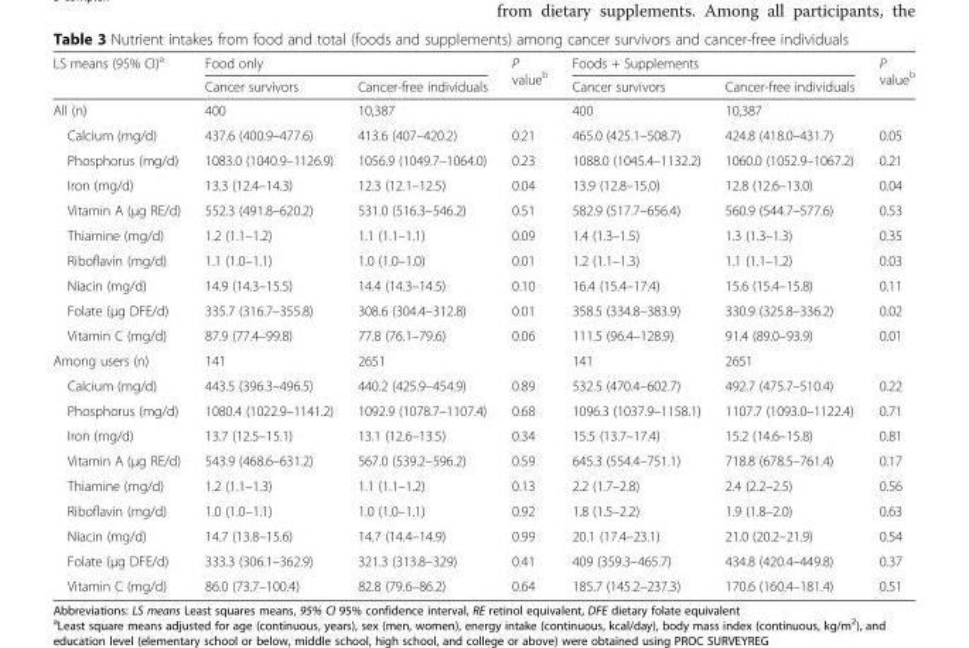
<table><thead><tr><td rowspan="2">LS means (95% CI)<sup>a</sup></td><td colspan="2">Food only</td><td rowspan="2">P value<sup>b</sup></td><td colspan="2">Foods + Supplements</td><td rowspan="2">P value<sup>b</sup></td></tr><tr><td>Cancer survivors</td><td>Cancer-free individuals</td><td>Cancer survivors</td><td>Cancer-free individuals</td></tr></thead><tbody><tr><td>All (n)</td><td>400</td><td>10,387</td><td></td><td>400</td><td>10,387</td><td></td></tr><tr><td>Calcium (mg/d)</td><td>437.6 (400.9–477.6)</td><td>413.6 (407–420.2)</td><td>0.21</td><td>465.0 (425.1–508.7)</td><td>424.8 (418.0–431.7)</td><td>0.05</td></tr><tr><td>Phosphorus (mg/d)</td><td>1083.0 (1040.9–1126.9)</td><td>1056.9 (1049.7–1064.0)</td><td>0.23</td><td>1088.0 (1045.4–1132.2)</td><td>1060.0 (1052.9–1067.2)</td><td>0.21</td></tr><tr><td>Iron (mg/d)</td><td>13.3 (12.4–14.3)</td><td>12.3 (12.1–12.5)</td><td>0.04</td><td>13.9 (12.8–15.0)</td><td>12.8 (12.6–13.0)</td><td>0.04</td></tr><tr><td>Vitamin A (μg RE/d)</td><td>552.3 (491.8–620.2)</td><td>531.0 (516.3–546.2)</td><td>0.51</td><td>582.9 (517.7–656.4)</td><td>560.9 (544.7–577.6)</td><td>0.53</td></tr><tr><td>Thiamine (mg/d)</td><td>1.2 (1.1–1.2)</td><td>1.1 (1.1–1.1)</td><td>0.09</td><td>1.4 (1.3–1.5)</td><td>1.3 (1.3–1.3)</td><td>0.35</td></tr><tr><td>Riboflavin (mg/d)</td><td>1.1 (1.0–1.1)</td><td>1.0 (1.0–1.0)</td><td>0.01</td><td>1.2 (1.1–1.3)</td><td>1.1 (1.1–1.2)</td><td>0.03</td></tr><tr><td>Niacin (mg/d)</td><td>14.9 (14.3–15.5)</td><td>14.4 (14.3–14.5)</td><td>0.10</td><td>16.4 (15.4–17.4)</td><td>15.6 (15.4–15.8)</td><td>0.11</td></tr><tr><td>Folate (μg DFE/d)</td><td>335.7 (316.7–355.8)</td><td>308.6 (304.4–312.8)</td><td>0.01</td><td>358.5 (334.8–383.9)</td><td>330.9 (325.8–336.2)</td><td>0.02</td></tr><tr><td>Vitamin C (mg/d)</td><td>87.9 (77.4–99.8)</td><td>77.8 (76.1–79.6)</td><td>0.06</td><td>111.5 (96.4–128.9)</td><td>91.4 (89.0–93.9)</td><td>0.01</td></tr><tr><td>Among users (n)</td><td>141</td><td>2651</td><td></td><td>141</td><td>2651</td><td></td></tr><tr><td>Calcium (mg/d)</td><td>443.5 (396.3–496.5)</td><td>440.2 (425.9–454.9)</td><td>0.89</td><td>532.5 (470.4–602.7)</td><td>492.7 (475.7–510.4)</td><td>0.22</td></tr><tr><td>Phosphorus (mg/d)</td><td>1080.4 (1022.9–1141.2)</td><td>1092.9 (1078.7–1107.4)</td><td>0.68</td><td>1096.3 (1037.9–1158.1)</td><td>1107.7 (1093.0–1122.4)</td><td>0.71</td></tr><tr><td>Iron (mg/d)</td><td>13.7 (12.5–15.1)</td><td>13.1 (12.6–13.5)</td><td>0.34</td><td>15.5 (13.7–17.4)</td><td>15.2 (14.6–15.8)</td><td>0.81</td></tr><tr><td>Vitamin A (μg RE/d)</td><td>543.9 (468.6–631.2)</td><td>567.0 (539.2–596.2)</td><td>0.59</td><td>645.3 (554.4–751.1)</td><td>718.8 (678.5–761.4)</td><td>0.17</td></tr><tr><td>Thiamine (mg/d)</td><td>1.2 (1.1–1.3)</td><td>1.1 (1.1–1.2)</td><td>0.13</td><td>2.2 (1.7–2.8)</td><td>2.4 (2.2–2.5)</td><td>0.56</td></tr><tr><td>Riboflavin (mg/d)</td><td>1.0 (1.0–1.1)</td><td>1.0 (1.0–1.1)</td><td>0.92</td><td>1.8 (1.5–2.2)</td><td>1.9 (1.8–2.0)</td><td>0.63</td></tr><tr><td>Niacin (mg/d)</td><td>14.7 (13.8–15.6)</td><td>14.7 (14.4–14.9)</td><td>0.99</td><td>20.1 (17.4–23.1)</td><td>21.0 (20.2–21.9)</td><td>0.54</td></tr><tr><td>Folate (μg DFE/d)</td><td>333.3 (306.1–362.9)</td><td>321.3 (313.8–329)</td><td>0.41</td><td>409 (359.3–465.7)</td><td>434.8 (420.4–449.8)</td><td>0.37</td></tr><tr><td>Vitamin C (mg/d)</td><td>86.0 (73.7–100.4)</td><td>82.8 (79.6–86.2)</td><td>0.64</td><td>185.7 (145.2–237.3)</td><td>170.6 (160.4–181.4)</td><td>0.51</td></tr></tbody></table>